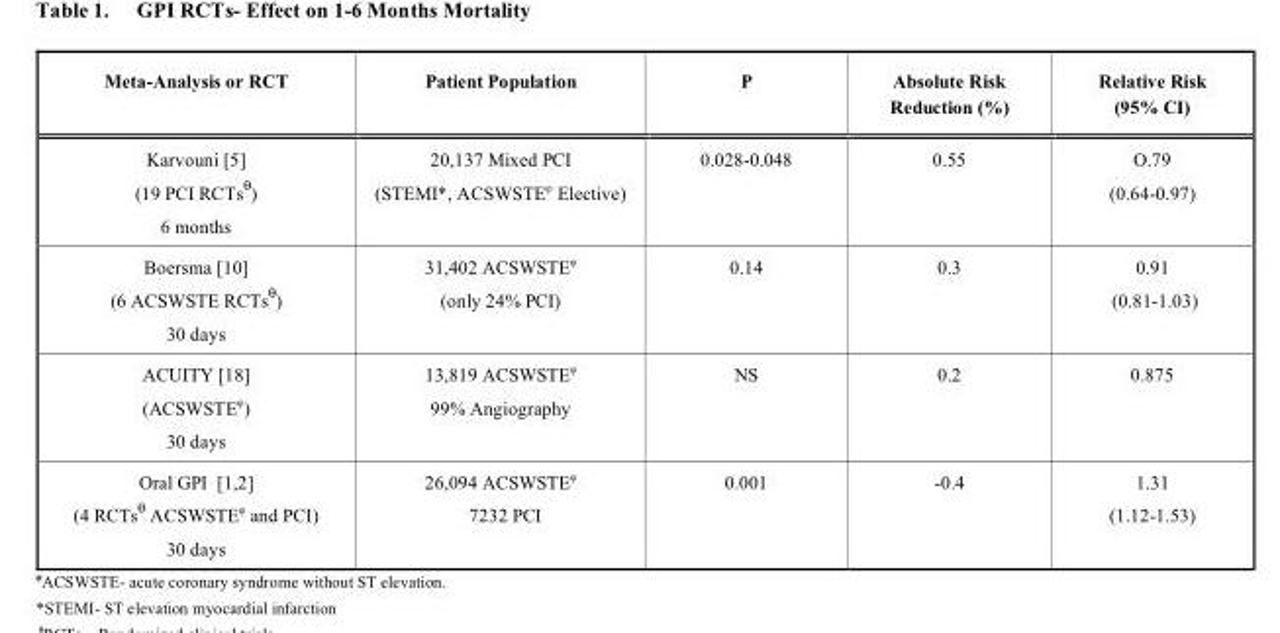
<table><thead><tr><td>Meta-Analysis or RCT</td><td>Patient Population</td><td>P</td><td>Absolute Risk Reduction (%)</td><td>Relative Risk (95% CI)</td></tr></thead><tbody><tr><td>Karvouni [5] (19 PCI RCTsθ) 6 months</td><td>20,137 Mixed PCI (STEMI*, ACSWSTEφ Elective)</td><td>0.028-0.048</td><td>0.55</td><td>O.79 (0.64-0.97)</td></tr><tr><td>Boersma [10] (6 ACSWSTE RCTsθ) 30 days</td><td>31,402 ACSWSTEφ (only 24% PCI)</td><td>0.14</td><td>0.3</td><td>0.91 (0.81-1.03)</td></tr><tr><td>ACUITY [18] (ACSWSTEφ) 30 days</td><td>13,819 ACSWSTEφ 99% Angiography</td><td>NS</td><td>0.2</td><td>0.875</td></tr><tr><td>Oral GPI [1,2] (4 RCTsθ ACSWSTEφ and PCI) 30 days</td><td>26,094 ACSWSTEφ 7232 PCI</td><td>0.001</td><td>-0.4</td><td>1.31 (1.12-1.53)</td></tr></tbody></table>